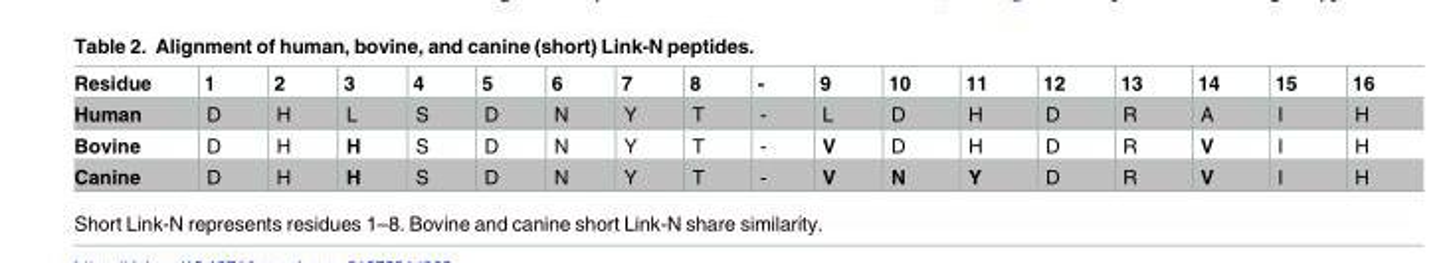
<table><thead><tr><td>Residue</td><td>1</td><td>2</td><td>3</td><td>4</td><td>5</td><td>6</td><td>7</td><td>8</td><td>-</td><td>9</td><td>10</td><td>11</td><td>12</td><td>13</td><td>14</td><td>15</td><td>16</td></tr></thead><tbody><tr><td>Human</td><td>D</td><td>H</td><td>L</td><td>S</td><td>D</td><td>N</td><td>Y</td><td>T</td><td>-</td><td>L</td><td>D</td><td>H</td><td>D</td><td>R</td><td>A</td><td>I</td><td>H</td></tr><tr><td>Bovine</td><td>D</td><td>H</td><td>H</td><td>S</td><td>D</td><td>N</td><td>Y</td><td>T</td><td>-</td><td>V</td><td>D</td><td>H</td><td>D</td><td>R</td><td>V</td><td>I</td><td>H</td></tr><tr><td>Canine</td><td>D</td><td>H</td><td>H</td><td>S</td><td>D</td><td>N</td><td>Y</td><td>T</td><td>-</td><td>V</td><td>N</td><td>Y</td><td>D</td><td>R</td><td>V</td><td>I</td><td>H</td></tr></tbody></table>